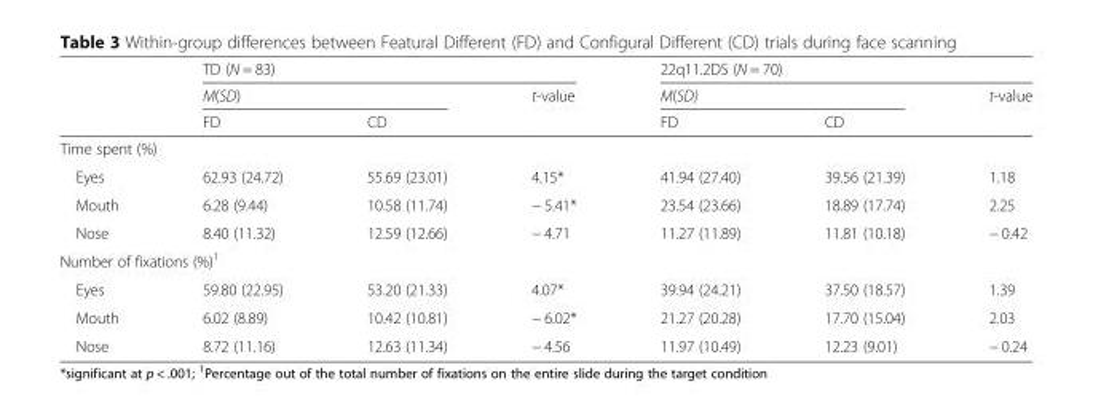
<table><thead><tr><td rowspan="3"></td><td colspan="3">TD (N = 83)</td><td colspan="3">22q11.2DS (N = 70)</td></tr><tr><td colspan="2">M(SD)</td><td rowspan="2">t-value</td><td colspan="2">M(SD)</td><td rowspan="2">t-value</td></tr><tr><td>FD</td><td>CD</td><td>FD</td><td>CD</td></tr></thead><tbody><tr><td colspan="7">Time spent (%)</td></tr><tr><td>Eyes</td><td>62.93 (24.72)</td><td>55.69 (23.01)</td><td>4.15*</td><td>41.94 (27.40)</td><td>39.56 (21.39)</td><td>1.18</td></tr><tr><td>Mouth</td><td>6.28 (9.44)</td><td>10.58 (11.74)</td><td>− 5.41*</td><td>23.54 (23.66)</td><td>18.89 (17.74)</td><td>2.25</td></tr><tr><td>Nose</td><td>8.40 (11.32)</td><td>12.59 (12.66)</td><td>− 4.71</td><td>11.27 (11.89)</td><td>11.81 (10.18)</td><td>− 0.42</td></tr><tr><td colspan="7">Number of fixations (%)<sup>1</sup></td></tr><tr><td>Eyes</td><td>59.80 (22.95)</td><td>53.20 (21.33)</td><td>4.07*</td><td>39.94 (24.21)</td><td>37.50 (18.57)</td><td>1.39</td></tr><tr><td>Mouth</td><td>6.02 (8.89)</td><td>10.42 (10.81)</td><td>− 6.02*</td><td>21.27 (20.28)</td><td>17.70 (15.04)</td><td>2.03</td></tr><tr><td>Nose</td><td>8.72 (11.16)</td><td>12.63 (11.34)</td><td>− 4.56</td><td>11.97 (10.49)</td><td>12.23 (9.01)</td><td>− 0.24</td></tr></tbody></table>